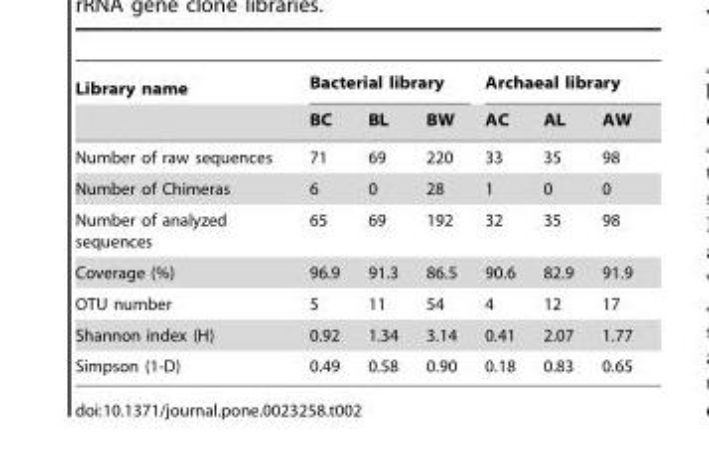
<table><thead><tr><td rowspan="2">Library name</td><td colspan="3">Bacterial library</td><td colspan="3">Archaeal library</td></tr><tr><td>BC</td><td>BL</td><td>BW</td><td>AC</td><td>AL</td><td>AW</td></tr></thead><tbody><tr><td>Number of raw sequences</td><td>71</td><td>69</td><td>220</td><td>33</td><td>35</td><td>98</td></tr><tr><td>Number of Chimeras</td><td>6</td><td>0</td><td>28</td><td>1</td><td>0</td><td>0</td></tr><tr><td>Number of analyzed sequences</td><td>65</td><td>69</td><td>192</td><td>32</td><td>35</td><td>98</td></tr><tr><td>Coverage (%)</td><td>96.9</td><td>91.3</td><td>86.5</td><td>90.6</td><td>82.9</td><td>91.9</td></tr><tr><td>OTU number</td><td>5</td><td>11</td><td>54</td><td>4</td><td>12</td><td>17</td></tr><tr><td>Shannon index (H)</td><td>0.92</td><td>1.34</td><td>3.14</td><td>0.41</td><td>2.07</td><td>1.77</td></tr><tr><td>Simpson (1-D)</td><td>0.49</td><td>0.58</td><td>0.90</td><td>0.18</td><td>0.83</td><td>0.65</td></tr></tbody></table>